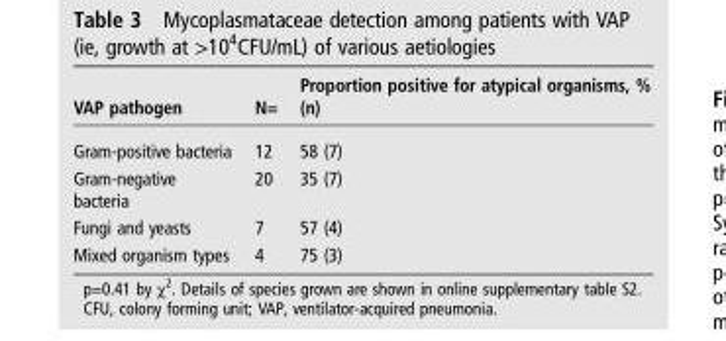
<table><thead><tr><td>VAP pathogen</td><td>N=</td><td>Proportion positive for atypical organisms, % (n)</td></tr></thead><tbody><tr><td>Gram-positive bacteria</td><td>12</td><td>58 (7)</td></tr><tr><td>Gram-negative bacteria</td><td>20</td><td>35 (7)</td></tr><tr><td>Fungi and yeasts</td><td>7</td><td>57 (4)</td></tr><tr><td>Mixed organism types</td><td>4</td><td>75 (3)</td></tr></tbody></table>